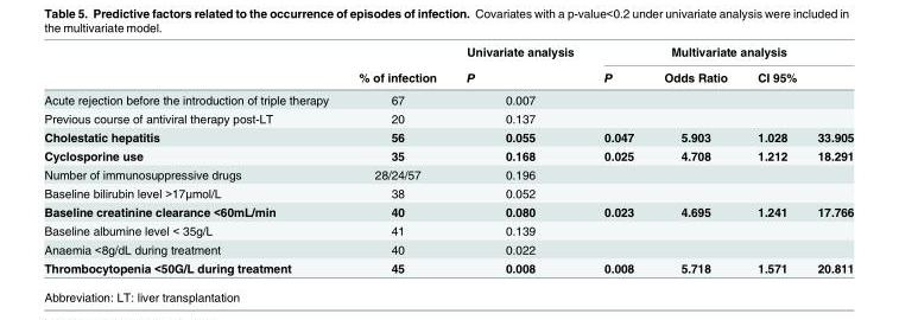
<table><thead><tr><td rowspan="3">Acute rejection before the introduction of triple therapy</td><td rowspan="3">% of infection 67</td><td rowspan="3">Univariate analysis P 0.007</td><td colspan="4">Multivariate analysis</td></tr><tr><td rowspan="2">P</td><td rowspan="2">Odds Ratio</td><td colspan="2">CI 95%</td></tr><tr><td></td><td></td></tr></thead><tbody><tr><td>Previous course of antiviral therapy post-LT</td><td>20</td><td>0.137</td><td></td><td></td><td></td><td></td></tr><tr><td>Cholestatic hepatitis</td><td>56</td><td>0.055</td><td>0.047</td><td>5.903</td><td>1.028</td><td>33.905</td></tr><tr><td>Cyclosporine use</td><td>35</td><td>0.168</td><td>0.025</td><td>4.708</td><td>1.212</td><td>18.291</td></tr><tr><td>Number of immunosuppressive drugs</td><td>28/24/57</td><td>0.196</td><td></td><td></td><td></td><td></td></tr><tr><td>Baseline bilirubin level &gt;17μmol/L</td><td>38</td><td>0.052</td><td></td><td></td><td></td><td></td></tr><tr><td>Baseline creatinine clearance &lt;60mL/min</td><td>40</td><td>0.080</td><td>0.023</td><td>4.695</td><td>1.241</td><td>17.766</td></tr><tr><td>Baseline albumine level &lt; 35g/L</td><td>41</td><td>0.139</td><td></td><td></td><td></td><td></td></tr><tr><td>Anaemia &lt;8g/dL during treatment</td><td>40</td><td>0.022</td><td></td><td></td><td></td><td></td></tr><tr><td>Thrombocytopenia &lt;50G/L during treatment</td><td>45</td><td>0.008</td><td>0.008</td><td>5.718</td><td>1.571</td><td>20.811</td></tr></tbody></table>